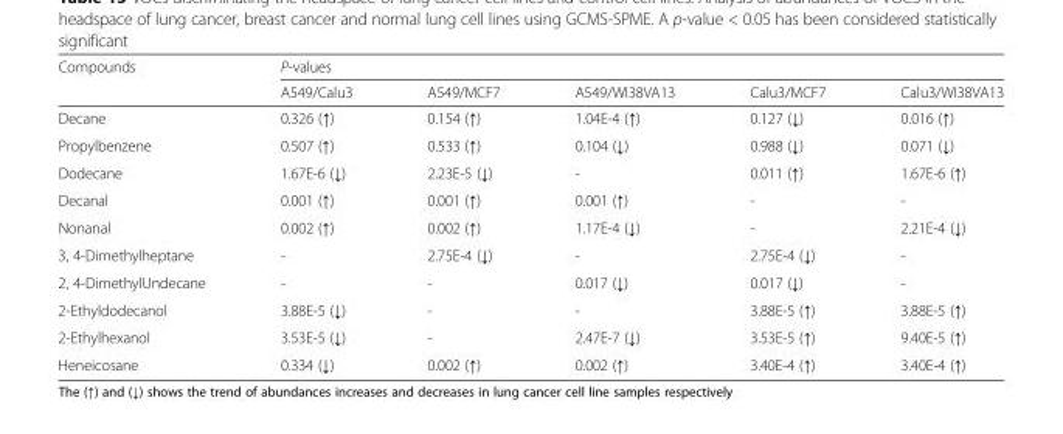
<table><thead><tr><td rowspan="2">Compounds</td><td colspan="5">P-values</td></tr><tr><td>A549/Calu3</td><td>A549/MCF7</td><td>A549/WI38VA13</td><td>Calu3/MCF7</td><td>Calu3/WI38VA13</td></tr></thead><tbody><tr><td>Decane</td><td>0.326 (↑)</td><td>0.154 (↑)</td><td>1.04E-4 (↑)</td><td>0.127 (↓)</td><td>0.016 (↑)</td></tr><tr><td>Propylbenzene</td><td>0.507 (↑)</td><td>0.533 (↑)</td><td>0.104 (↓)</td><td>0.988 (↓)</td><td>0.071 (↓)</td></tr><tr><td>Dodecane</td><td>1.67E-6 (↓)</td><td>2.23E-5 (↓)</td><td>-</td><td>0.011 (↑)</td><td>1.67E-6 (↑)</td></tr><tr><td>Decanal</td><td>0.001 (↑)</td><td>0.001 (↑)</td><td>0.001 (↑)</td><td>-</td><td>-</td></tr><tr><td>Nonanal</td><td>0.002 (↑)</td><td>0.002 (↑)</td><td>1.17E-4 (↓)</td><td>-</td><td>2.21E-4 (↓)</td></tr><tr><td>3, 4-Dimethylheptane</td><td>-</td><td>2.75E-4 (↓)</td><td>-</td><td>2.75E-4 (↓)</td><td>-</td></tr><tr><td>2, 4-DimethylUndecane</td><td>-</td><td>-</td><td>0.017 (↓)</td><td>0.017 (↓)</td><td>-</td></tr><tr><td>2-Ethyldodecanol</td><td>3.88E-5 (↓)</td><td>-</td><td>-</td><td>3.88E-5 (↑)</td><td>3.88E-5 (↑)</td></tr><tr><td>2-Ethylhexanol</td><td>3.53E-5 (↓)</td><td>-</td><td>2.47E-7 (↓)</td><td>3.53E-5 (↑)</td><td>9.40E-5 (↑)</td></tr><tr><td>Heneicosane</td><td>0.334 (↓)</td><td>0.002 (↑)</td><td>0.002 (↑)</td><td>3.40E-4 (↑)</td><td>3.40E-4 (↑)</td></tr></tbody></table>